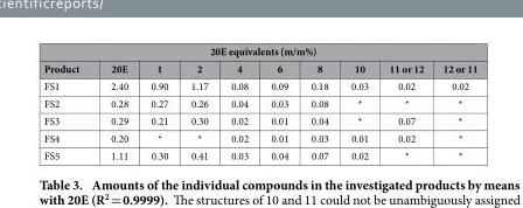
<table><thead><tr><td colspan="10">20E equivalents (m/m%)</td></tr><tr><td>Product</td><td>20E</td><td>1</td><td>2</td><td>4</td><td>6</td><td>8</td><td>10</td><td>11 or 12</td><td>12 or 11</td></tr></thead><tbody><tr><td>FS1</td><td>2.40</td><td>0.90</td><td>1.17</td><td>0.08</td><td>0.09</td><td>0.18</td><td>0.03</td><td>0.02</td><td>0.02</td></tr><tr><td>FS2</td><td>0.28</td><td>0.27</td><td>0.26</td><td>0.04</td><td>0.03</td><td>0.08</td><td>*</td><td>*</td><td>*</td></tr><tr><td>FS3</td><td>0.29</td><td>0.21</td><td>0.30</td><td>0.02</td><td>0.01</td><td>0.04</td><td>*</td><td>0.07</td><td>*</td></tr><tr><td>FS4</td><td>0.20</td><td>*</td><td>*</td><td>0.02</td><td>0.01</td><td>0.03</td><td>0.01</td><td>0.02</td><td>*</td></tr><tr><td>FS5</td><td>1.11</td><td>0.30</td><td>0.41</td><td>0.03</td><td>0.04</td><td>0.07</td><td>0.02</td><td>*</td><td>*</td></tr></tbody></table>